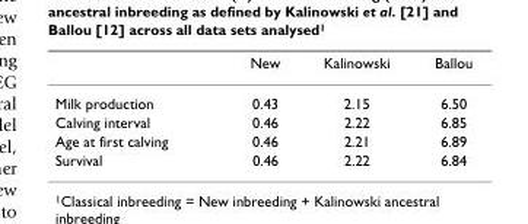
<table><thead><tr><td></td><td>New</td><td>Kalinowski</td><td>Ballou</td></tr></thead><tbody><tr><td>Milk production</td><td>0.43</td><td>2.15</td><td>6.50</td></tr><tr><td>Calving interval</td><td>0.46</td><td>2.22</td><td>6.85</td></tr><tr><td>Age at first calving</td><td>0.46</td><td>2.21</td><td>6.89</td></tr><tr><td>Survival</td><td>0.46</td><td>2.22</td><td>6.84</td></tr></tbody></table>